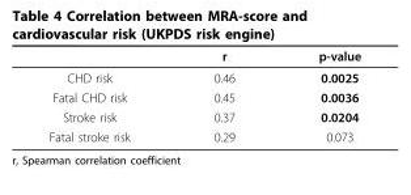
<table><thead><tr><td></td><td>r</td><td>p-value</td></tr></thead><tbody><tr><td>CHD risk</td><td>0.46</td><td>0.0025</td></tr><tr><td>Fatal CHD risk</td><td>0.45</td><td>0.0036</td></tr><tr><td>Stroke risk</td><td>0.37</td><td>0.0204</td></tr><tr><td>Fatal stroke risk</td><td>0.29</td><td>0.073</td></tr></tbody></table>